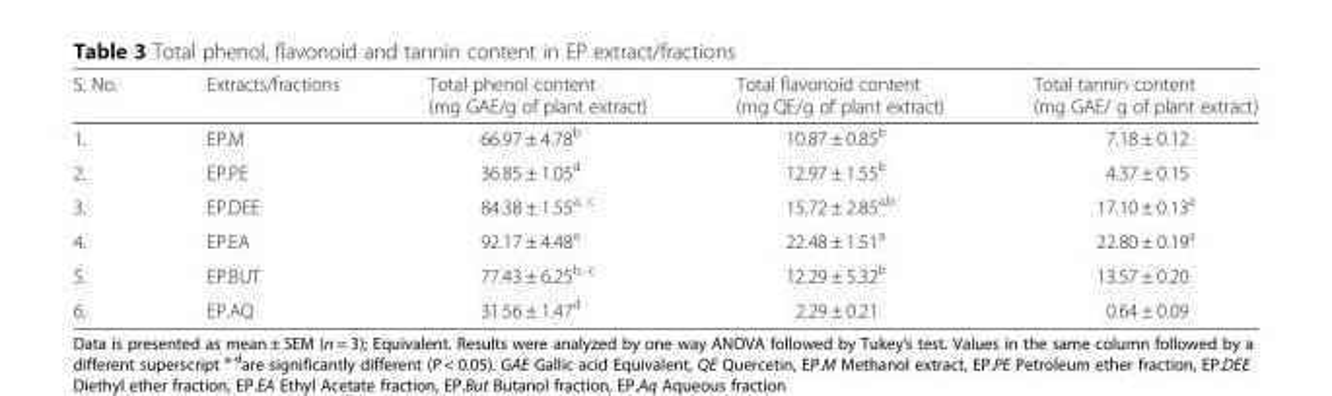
<table><thead><tr><td>S. No.</td><td>Extracts/fractions</td><td>Total phenol content (mg GAE/g of plant extract)</td><td>Total flavonoid content (mg QE/g of plant extract)</td><td>Total tannin content (mg GAE/ g of plant extract)</td></tr></thead><tbody><tr><td>1.</td><td>EP.M</td><td>66.97 ± 4.78<sup>b</sup></td><td>10.87 ± 0.85<sup>b</sup></td><td>7.18 ± 0.12</td></tr><tr><td>2.</td><td>EP.PE</td><td>36.85 ± 1.05<sup>d</sup></td><td>12.97 ± 1.55<sup>b</sup></td><td>4.37 ± 0.15</td></tr><tr><td>3.</td><td>EP.DEE</td><td>84.38 ± 1.55<sup>a, c</sup></td><td>15.72 ± 2.85<sup>a,b</sup></td><td>17.10 ± 0.13<sup>a</sup></td></tr><tr><td>4.</td><td>EP.EA</td><td>92.17 ± 4.48<sup>a</sup></td><td>22.48 ± 1.51<sup>a</sup></td><td>22.80 ± 0.19<sup>a</sup></td></tr><tr><td>5.</td><td>EP.BUT</td><td>77.43 ± 6.25<sup>b, c</sup></td><td>12.29 ± 5.32<sup>b</sup></td><td>13.57 ± 0.20</td></tr><tr><td>6.</td><td>EP.AQ</td><td>31.56 ± 1.47<sup>d</sup></td><td>2.29 ± 0.21</td><td>0.64 ± 0.09</td></tr></tbody></table>